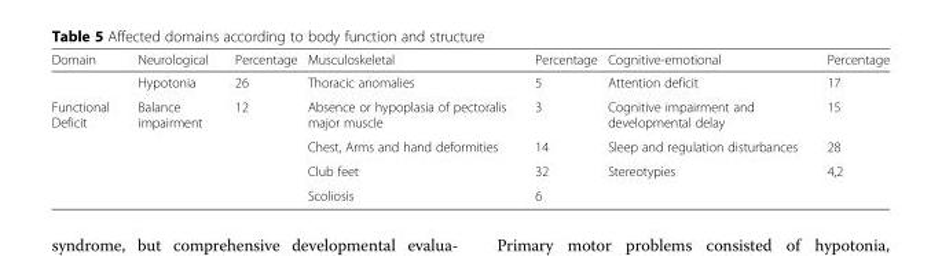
<table><thead><tr><td>Domain</td><td>Neurological</td><td>Percentage</td><td>Musculoskeletal</td><td>Percentage</td><td>Cognitive-emotional</td><td>Percentage</td></tr></thead><tbody><tr><td></td><td>Hypotonia</td><td>26</td><td>Thoracic anomalies</td><td>5</td><td>Attention deficit</td><td>17</td></tr><tr><td rowspan="4">Functional Deficit</td><td>Balance impairment</td><td>12</td><td>Absence or hypoplasia of pectoralis major muscle</td><td>3</td><td>Cognitive impairment and developmental delay</td><td>15</td></tr><tr><td></td><td></td><td>Chest, Arms and hand deformities</td><td>14</td><td>Sleep and regulation disturbances</td><td>28</td></tr><tr><td></td><td></td><td>Club feet</td><td>32</td><td>Stereotypies</td><td>4,2</td></tr><tr><td></td><td></td><td>Scoliosis</td><td>6</td><td></td><td></td></tr></tbody></table>